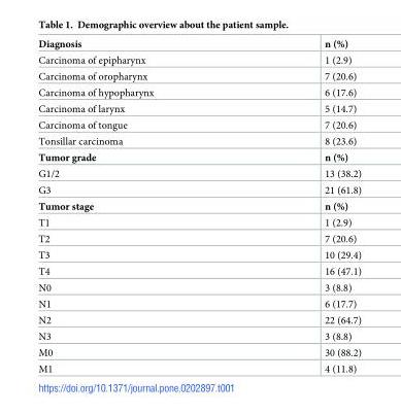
<table><tbody><tr><td>Diagnosis</td><td>n (%)</td></tr><tr><td>Carcinoma of epipharynx</td><td>1 (2.9)</td></tr><tr><td>Carcinoma of oropharynx</td><td>7 (20.6)</td></tr><tr><td>Carcinoma of hypopharynx</td><td>6 (17.6)</td></tr><tr><td>Carcinoma of larynx</td><td>5 (14.7)</td></tr><tr><td>Carcinoma of tongue</td><td>7 (20.6)</td></tr><tr><td>Tonsillar carcinoma</td><td>8 (23.6)</td></tr><tr><td>Tumor grade</td><td>n (%)</td></tr><tr><td>G1/2</td><td>13 (38.2)</td></tr><tr><td>G3</td><td>21 (61.8)</td></tr><tr><td>Tumor stage</td><td>n (%)</td></tr><tr><td>T1</td><td>1 (2.9)</td></tr><tr><td>T2</td><td>7 (20.6)</td></tr><tr><td>T3</td><td>10 (29.4)</td></tr><tr><td>T4</td><td>16 (47.1)</td></tr><tr><td>N0</td><td>3 (8.8)</td></tr><tr><td>N1</td><td>6 (17.7)</td></tr><tr><td>N2</td><td>22 (64.7)</td></tr><tr><td>N3</td><td>3 (8.8)</td></tr><tr><td>M0</td><td>30 (88.2)</td></tr><tr><td>M1</td><td>4 (11.8)</td></tr></tbody></table>